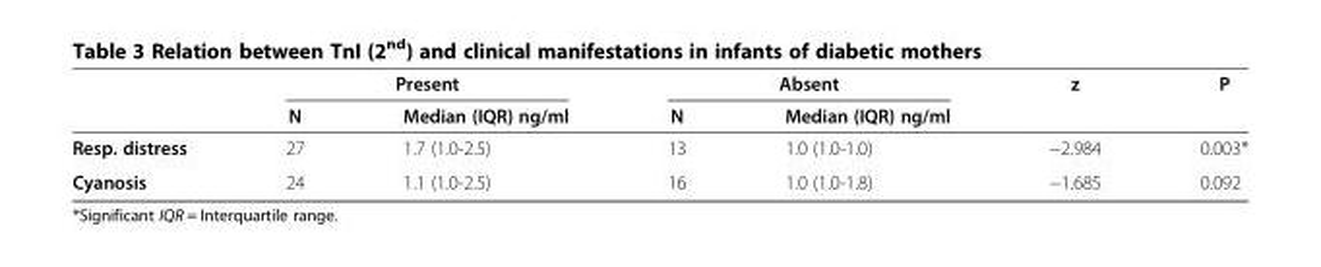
<table><thead><tr><td rowspan="2"></td><td colspan="2">Present</td><td colspan="2">Absent</td><td rowspan="2">z</td><td rowspan="2">P</td></tr><tr><td>N</td><td>Median (IQR) ng/ml</td><td>N</td><td>Median (IQR) ng/ml</td></tr></thead><tbody><tr><td>Resp. distress</td><td>27</td><td>1.7 (1.0-2.5)</td><td>13</td><td>1.0 (1.0-1.0)</td><td>−2.984</td><td>0.003*</td></tr><tr><td>Cyanosis</td><td>24</td><td>1.1 (1.0-2.5)</td><td>16</td><td>1.0 (1.0-1.8)</td><td>−1.685</td><td>0.092</td></tr></tbody></table>